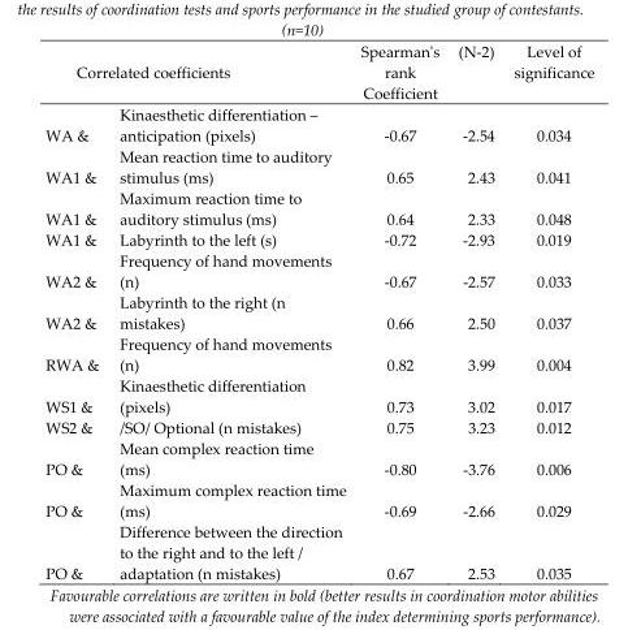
<table><thead><tr><td colspan="2">Correlated coefficients</td><td rowspan="2">Spearman&#x27;s rank Coefficient -0.67</td><td rowspan="2">(N-2) -2.54</td><td rowspan="2">Level of significance 0.034</td></tr><tr><td>WA &amp;</td><td>Kinaesthetic differentiation – anticipation (pixels)</td></tr></thead><tbody><tr><td>WA1 &amp;</td><td>Mean reaction time to auditory stimulus (ms)</td><td>0.65</td><td>2.43</td><td>0.041</td></tr><tr><td>WA1 &amp;</td><td>Maximum reaction time to auditory stimulus (ms)</td><td>0.64</td><td>2.33</td><td>0.048</td></tr><tr><td>WA1 &amp;</td><td>Labyrinth to the left (s)</td><td>-0.72</td><td>-2.93</td><td>0.019</td></tr><tr><td>WA2 &amp;</td><td>Frequency of hand movements (n)</td><td>-0.67</td><td>-2.57</td><td>0.033</td></tr><tr><td>WA2 &amp;</td><td>Labyrinth to the right (n mistakes)</td><td>0.66</td><td>2.50</td><td>0.037</td></tr><tr><td>RWA &amp;</td><td>Frequency of hand movements (n)</td><td>0.82</td><td>3.99</td><td>0.004</td></tr><tr><td>WS1 &amp;</td><td>Kinaesthetic differentiation (pixels)</td><td>0.73</td><td>3.02</td><td>0.017</td></tr><tr><td>WS2 &amp;</td><td>/SO/ Optional (n mistakes)</td><td>0.75</td><td>3.23</td><td>0.012</td></tr><tr><td>PO &amp;</td><td>Mean complex reaction time (ms)</td><td>-0.80</td><td>-3.76</td><td>0.006</td></tr><tr><td>PO &amp;</td><td>Maximum complex reaction time (ms)</td><td>-0.69</td><td>-2.66</td><td>0.029</td></tr><tr><td>PO &amp;</td><td>Difference between the direction to the right and to the left / adaptation (n mistakes)</td><td>0.67</td><td>2.53</td><td>0.035</td></tr></tbody></table>